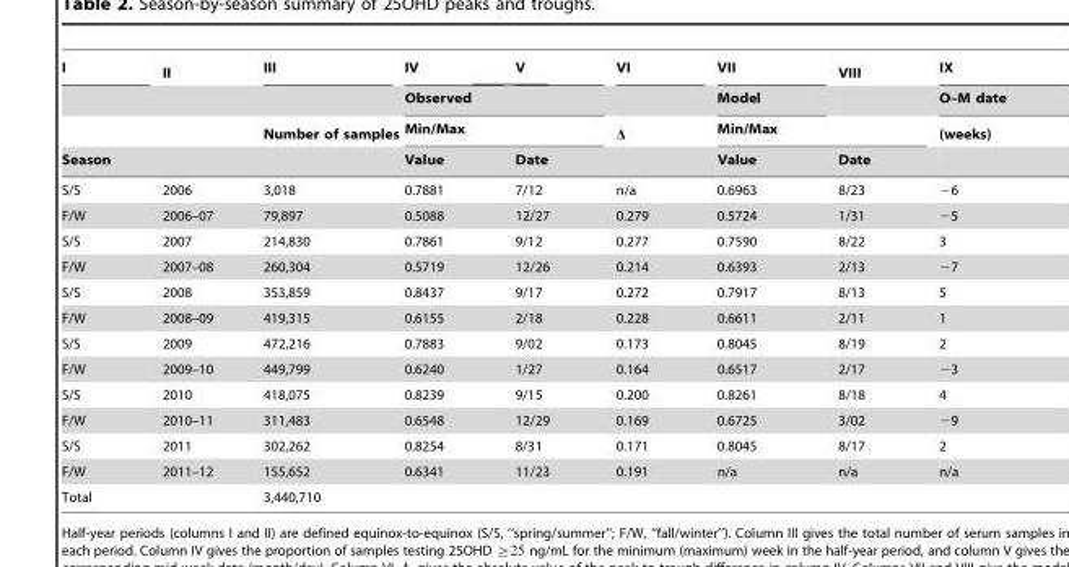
<table><thead><tr><td rowspan="4">I Season</td><td rowspan="4">II</td><td rowspan="4">III Number of samples</td><td>IV</td><td>V</td><td rowspan="4">VI Δ</td><td rowspan="2">VII Model</td><td rowspan="2">VIII</td><td rowspan="4">IX O–M date (weeks)</td></tr><tr><td rowspan="2" colspan="2">Observed Min/Max</td></tr><tr><td colspan="2">Min/Max</td></tr><tr><td>Value</td><td>Date</td><td>Value</td><td>Date</td></tr></thead><tbody><tr><td>S/S</td><td>2006</td><td>3,018</td><td>0.7881</td><td>7/12</td><td>n/a</td><td>0.6963</td><td>8/23</td><td>−6</td></tr><tr><td>F/W</td><td>2006–07</td><td>79,897</td><td>0.5088</td><td>12/27</td><td>0.279</td><td>0.5724</td><td>1/31</td><td>−5</td></tr><tr><td>S/S</td><td>2007</td><td>214,830</td><td>0.7861</td><td>9/12</td><td>0.277</td><td>0.7590</td><td>8/22</td><td>3</td></tr><tr><td>F/W</td><td>2007–08</td><td>260,304</td><td>0.5719</td><td>12/26</td><td>0.214</td><td>0.6393</td><td>2/13</td><td>−7</td></tr><tr><td>S/S</td><td>2008</td><td>353,859</td><td>0.8437</td><td>9/17</td><td>0.272</td><td>0.7917</td><td>8/13</td><td>5</td></tr><tr><td>F/W</td><td>2008–09</td><td>419,315</td><td>0.6155</td><td>2/18</td><td>0.228</td><td>0.6611</td><td>2/11</td><td>1</td></tr><tr><td>S/S</td><td>2009</td><td>472,216</td><td>0.7883</td><td>9/02</td><td>0.173</td><td>0.8045</td><td>8/19</td><td>2</td></tr><tr><td>F/W</td><td>2009–10</td><td>449,799</td><td>0.6240</td><td>1/27</td><td>0.164</td><td>0.6517</td><td>2/17</td><td>−3</td></tr><tr><td>S/S</td><td>2010</td><td>418,075</td><td>0.8239</td><td>9/15</td><td>0.200</td><td>0.8261</td><td>8/18</td><td>4</td></tr><tr><td>F/W</td><td>2010–11</td><td>311,483</td><td>0.6548</td><td>12/29</td><td>0.169</td><td>0.6725</td><td>3/02</td><td>−9</td></tr><tr><td>S/S</td><td>2011</td><td>302,262</td><td>0.8254</td><td>8/31</td><td>0.171</td><td>0.8045</td><td>8/17</td><td>2</td></tr><tr><td>F/W</td><td>2011–12</td><td>155,652</td><td>0.6341</td><td>11/23</td><td>0.191</td><td>n/a</td><td>n/a</td><td>n/a</td></tr><tr><td>Total</td><td></td><td>3,440,710</td><td></td><td></td><td></td><td></td><td></td><td></td></tr></tbody></table>